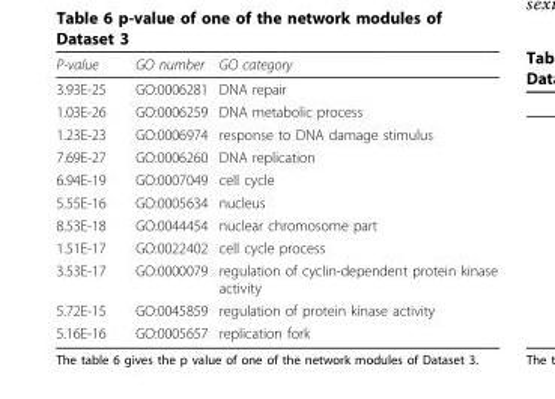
<table><thead><tr><td>P-value</td><td>GO number</td><td>GO category</td></tr></thead><tbody><tr><td>3.93E-25</td><td>GO:0006281</td><td>DNA repair</td></tr><tr><td>1.03E-26</td><td>GO:0006259</td><td>DNA metabolic process</td></tr><tr><td>1.23E-23</td><td>GO:0006974</td><td>response to DNA damage stimulus</td></tr><tr><td>7.69E-27</td><td>GO:0006260</td><td>DNA replication</td></tr><tr><td>6.94E-19</td><td>GO:0007049</td><td>cell cycle</td></tr><tr><td>5.55E-16</td><td>GO:0005634</td><td>nucleus</td></tr><tr><td>8.53E-18</td><td>GO:0044454</td><td>nuclear chromosome part</td></tr><tr><td>1.51E-17</td><td>GO:0022402</td><td>cell cycle process</td></tr><tr><td>3.53E-17</td><td>GO:0000079</td><td>regulation of cyclin-dependent protein kinase activity</td></tr><tr><td>5.72E-15</td><td>GO:0045859</td><td>regulation of protein kinase activity</td></tr><tr><td>5.16E-16</td><td>GO:0005657</td><td>replication fork</td></tr></tbody></table>